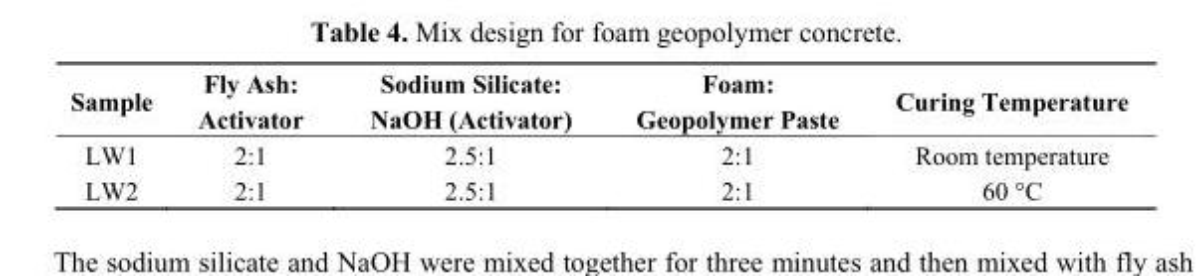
<table><thead><tr><td>Sample</td><td>Fly Ash: Activator</td><td>Sodium Silicate: NaOH (Activator)</td><td>Foam: Geopolymer Paste</td><td>Curing Temperature</td></tr></thead><tbody><tr><td>LW1</td><td>2:1</td><td>2.5:1</td><td>2:1</td><td>Room temperature</td></tr><tr><td>LW2</td><td>2:1</td><td>2.5:1</td><td>2:1</td><td>60 °C</td></tr></tbody></table>